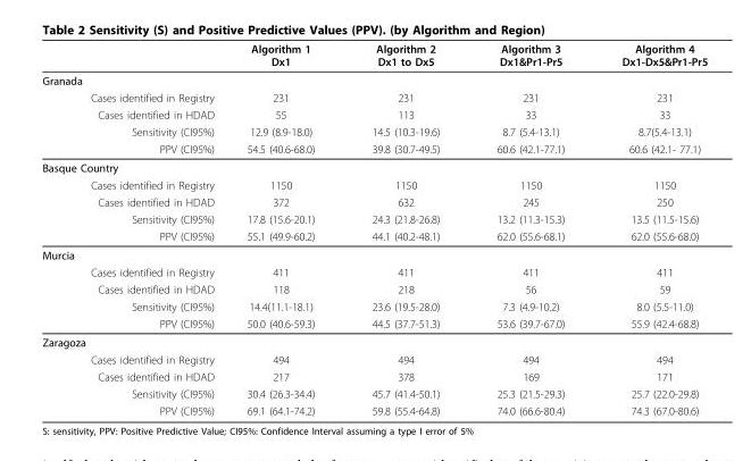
<table><thead><tr><td></td><td>Algorithm 1 Dx1</td><td>Algorithm 2 Dx1 to Dx5</td><td>Algorithm 3 Dx1&amp;Pr1-Pr5</td><td>Algorithm 4 Dx1-Dx5&amp;Pr1-Pr5</td></tr></thead><tbody><tr><td colspan="5">Granada</td></tr><tr><td>Cases identified in Registry</td><td>231</td><td>231</td><td>231</td><td>231</td></tr><tr><td>Cases identified in HDAD</td><td>55</td><td>113</td><td>33</td><td>33</td></tr><tr><td>Sensitivity (CI95%)</td><td>12.9 (8.9-18.0)</td><td>14.5 (10.3-19.6)</td><td>8.7 (5.4-13.1)</td><td>8.7(5.4-13.1)</td></tr><tr><td>PPV (CI95%)</td><td>54.5 (40.6-68.0)</td><td>39.8 (30.7-49.5)</td><td>60.6 (42.1-77.1)</td><td>60.6 (42.1- 77.1)</td></tr><tr><td colspan="5">Basque Country</td></tr><tr><td>Cases identified in Registry</td><td>1150</td><td>1150</td><td>1150</td><td>1150</td></tr><tr><td>Cases identified in HDAD</td><td>372</td><td>632</td><td>245</td><td>250</td></tr><tr><td>Sensitivity (CI95%)</td><td>17.8 (15.6-20.1)</td><td>24.3 (21.8-26.8)</td><td>13.2 (11.3-15.3)</td><td>13.5 (11.5-15.6)</td></tr><tr><td>PPV (CI95%)</td><td>55.1 (49.9-60.2)</td><td>44.1 (40.2-48.1)</td><td>62.0 (55.6-68.1)</td><td>62.0 (55.6-68.0)</td></tr><tr><td colspan="5">Murcia</td></tr><tr><td>Cases identified in Registry</td><td>411</td><td>411</td><td>411</td><td>411</td></tr><tr><td>Cases identified in HDAD</td><td>118</td><td>218</td><td>56</td><td>59</td></tr><tr><td>Sensitivity (CI95%)</td><td>14.4(11.1-18.1)</td><td>23.6 (19.5-28.0)</td><td>7.3 (4.9-10.2)</td><td>8.0 (5.5-11.0)</td></tr><tr><td>PPV (CI95%)</td><td>50.0 (40.6-59.3)</td><td>44.5 (37.7-51.3)</td><td>53.6 (39.7-67.0)</td><td>55.9 (42.4-68.8)</td></tr><tr><td colspan="5">Zaragoza</td></tr><tr><td>Cases identified in Registry</td><td>494</td><td>494</td><td>494</td><td>494</td></tr><tr><td>Cases identified in HDAD</td><td>217</td><td>378</td><td>169</td><td>171</td></tr><tr><td>Sensitivity (CI95%)</td><td>30.4 (26.3-34.4)</td><td>45.7 (41.4-50.1)</td><td>25.3 (21.5-29.3)</td><td>25.7 (22.0-29.8)</td></tr><tr><td>PPV (CI95%)</td><td>69.1 (64.1-74.2)</td><td>59.8 (55.4-64.8)</td><td>74.0 (66.6-80.4)</td><td>74.3 (67.0-80.6)</td></tr></tbody></table>